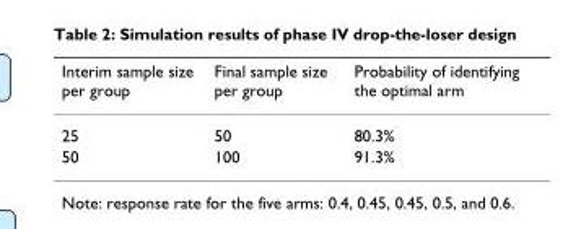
<table><thead><tr><td>Interim sample size per group</td><td>Final sample size per group</td><td>Probability of identifying the optimal arm</td></tr></thead><tbody><tr><td>25</td><td>50</td><td>80.3%</td></tr><tr><td>50</td><td>100</td><td>91.3%</td></tr></tbody></table>